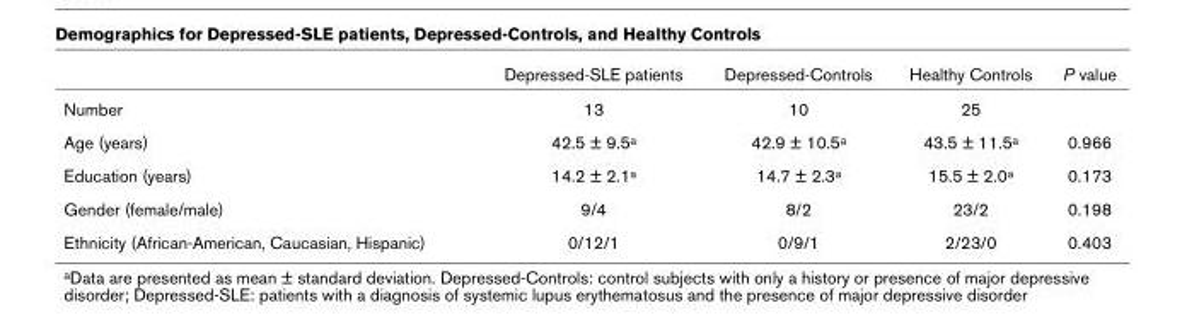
<table><thead><tr><td></td><td>Depressed-SLE patients</td><td>Depressed-Controls</td><td>Healthy Controls</td><td>P value</td></tr></thead><tbody><tr><td>Number</td><td>13</td><td>10</td><td>25</td><td></td></tr><tr><td>Age (years)</td><td>42.5 ± 9.5<sup>a</sup></td><td>42.9 ± 10.5<sup>a</sup></td><td>43.5 ± 11.5<sup>a</sup></td><td>0.966</td></tr><tr><td>Education (years)</td><td>14.2 ± 2.1<sup>a</sup></td><td>14.7 ± 2.3<sup>a</sup></td><td>15.5 ± 2.0<sup>a</sup></td><td>0.173</td></tr><tr><td>Gender (female/male)</td><td>9/4</td><td>8/2</td><td>23/2</td><td>0.198</td></tr><tr><td>Ethnicity (African-American, Caucasian, Hispanic)</td><td>0/12/1</td><td>0/9/1</td><td>2/23/0</td><td>0.403</td></tr></tbody></table>